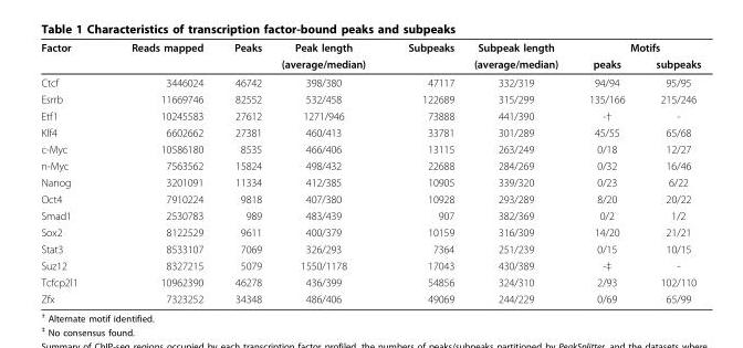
<table><thead><tr><td rowspan="2">Factor</td><td rowspan="2">Reads mapped</td><td rowspan="2">Peaks</td><td rowspan="2">Peak length (average/median)</td><td rowspan="2">Subpeaks</td><td rowspan="2">Subpeak length (average/median)</td><td colspan="2">Motifs</td></tr><tr><td>peaks</td><td>subpeaks</td></tr></thead><tbody><tr><td>Ctcf</td><td>3446024</td><td>46742</td><td>398/380</td><td>47117</td><td>332/319</td><td>94/94</td><td>95/95</td></tr><tr><td>Esrrb</td><td>11669746</td><td>82552</td><td>532/458</td><td>122689</td><td>315/299</td><td>135/166</td><td>215/246</td></tr><tr><td>Etf1</td><td>10245583</td><td>27612</td><td>1271/946</td><td>73888</td><td>441/390</td><td>-†</td><td>-</td></tr><tr><td>Klf4</td><td>6602662</td><td>27381</td><td>460/413</td><td>33781</td><td>301/289</td><td>45/55</td><td>65/68</td></tr><tr><td>c-Myc</td><td>10586180</td><td>8535</td><td>466/406</td><td>13115</td><td>263/249</td><td>0/18</td><td>12/27</td></tr><tr><td>n-Myc</td><td>7563562</td><td>15824</td><td>498/432</td><td>22688</td><td>284/269</td><td>0/32</td><td>16/46</td></tr><tr><td>Nanog</td><td>3201091</td><td>11334</td><td>412/385</td><td>10905</td><td>339/320</td><td>0/23</td><td>6/22</td></tr><tr><td>Oct4</td><td>7910224</td><td>9818</td><td>407/380</td><td>10928</td><td>293/289</td><td>8/20</td><td>20/22</td></tr><tr><td>Smad1</td><td>2530783</td><td>989</td><td>483/439</td><td>907</td><td>382/369</td><td>0/2</td><td>1/2</td></tr><tr><td>Sox2</td><td>8122529</td><td>9611</td><td>400/379</td><td>10159</td><td>316/309</td><td>14/20</td><td>21/21</td></tr><tr><td>Stat3</td><td>8533107</td><td>7069</td><td>326/293</td><td>7364</td><td>251/239</td><td>0/15</td><td>10/15</td></tr><tr><td>Suz12</td><td>8327215</td><td>5079</td><td>1550/1178</td><td>17043</td><td>430/389</td><td>-‡</td><td>-</td></tr><tr><td>Tcfcp2l1</td><td>10962390</td><td>46278</td><td>436/399</td><td>54856</td><td>324/310</td><td>2/93</td><td>102/110</td></tr><tr><td>Zfx</td><td>7323252</td><td>34348</td><td>486/406</td><td>49069</td><td>244/229</td><td>0/69</td><td>65/99</td></tr></tbody></table>